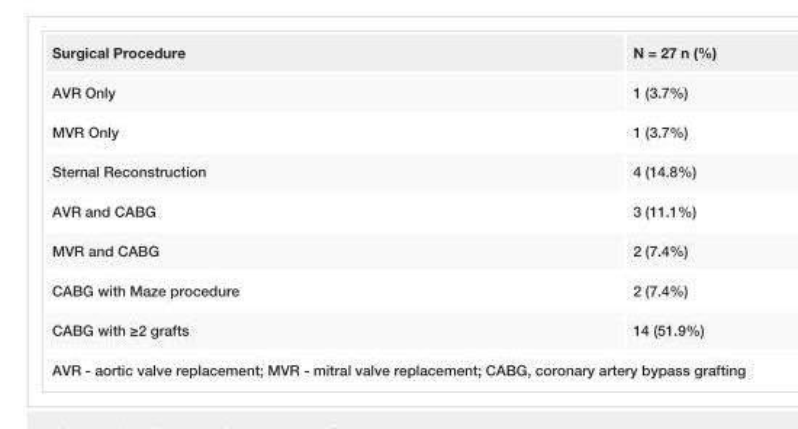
<table><tbody><tr><td>Surgical Procedure</td><td>N = 27 n (%)</td></tr><tr><td>AVR Only</td><td>1 (3.7%)</td></tr><tr><td>MVR Only</td><td>1 (3.7%)</td></tr><tr><td>Sternal Reconstruction</td><td>4 (14.8%)</td></tr><tr><td>AVR and CABG</td><td>3 (11.1%)</td></tr><tr><td>MVR and CABG</td><td>2 (7.4%)</td></tr><tr><td>CABG with Maze procedure</td><td>2 (7.4%)</td></tr><tr><td>CABG with ≥2 grafts</td><td>14 (51.9%)</td></tr><tr><td colspan="2">AVR - aortic valve replacement; MVR - mitral valve replacement; CABG, coronary artery bypass grafting</td></tr></tbody></table>